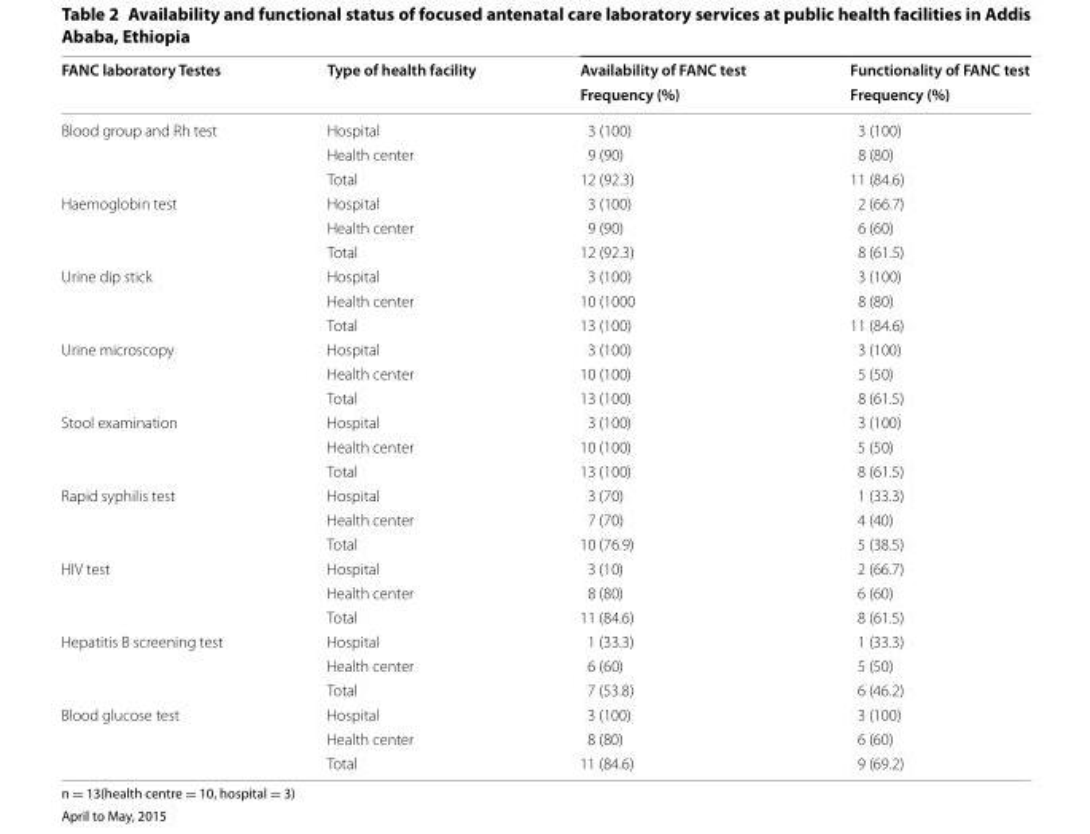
<table><thead><tr><td rowspan="2">FANC laboratory Testes</td><td rowspan="2">Type of health facility</td><td rowspan="2">Availability of FANC test Frequency (%)</td><td rowspan="2">Functionality of FANC test Frequency (%)</td></tr><tr></tr></thead><tbody><tr><td rowspan="3">Blood group and Rh test</td><td>Hospital</td><td>3 (100)</td><td>3 (100)</td></tr><tr><td>Health center</td><td>9 (90)</td><td>8 (80)</td></tr><tr><td>Total</td><td>12 (92.3)</td><td>11 (84.6)</td></tr><tr><td rowspan="3">Haemoglobin test</td><td>Hospital</td><td>3 (100)</td><td>2 (66.7)</td></tr><tr><td>Health center</td><td>9 (90)</td><td>6 (60)</td></tr><tr><td>Total</td><td>12 (92.3)</td><td>8 (61.5)</td></tr><tr><td rowspan="3">Urine dip stick</td><td>Hospital</td><td>3 (100)</td><td>3 (100)</td></tr><tr><td>Health center</td><td>10 (1000</td><td>8 (80)</td></tr><tr><td>Total</td><td>13 (100)</td><td>11 (84.6)</td></tr><tr><td rowspan="3">Urine microscopy</td><td>Hospital</td><td>3 (100)</td><td>3 (100)</td></tr><tr><td>Health center</td><td>10 (100)</td><td>5 (50)</td></tr><tr><td>Total</td><td>13 (100)</td><td>8 (61.5)</td></tr><tr><td rowspan="3">Stool examination</td><td>Hospital</td><td>3 (100)</td><td>3 (100)</td></tr><tr><td>Health center</td><td>10 (100)</td><td>5 (50)</td></tr><tr><td>Total</td><td>13 (100)</td><td>8 (61.5)</td></tr><tr><td rowspan="3">Rapid syphilis test</td><td>Hospital</td><td>3 (70)</td><td>1 (33.3)</td></tr><tr><td>Health center</td><td>7 (70)</td><td>4 (40)</td></tr><tr><td>Total</td><td>10 (76.9)</td><td>5 (38.5)</td></tr><tr><td rowspan="3">HIV test</td><td>Hospital</td><td>3 (10)</td><td>2 (66.7)</td></tr><tr><td>Health center</td><td>8 (80)</td><td>6 (60)</td></tr><tr><td>Total</td><td>11 (84.6)</td><td>8 (61.5)</td></tr><tr><td rowspan="3">Hepatitis B screening test</td><td>Hospital</td><td>1 (33.3)</td><td>1 (33.3)</td></tr><tr><td>Health center</td><td>6 (60)</td><td>5 (50)</td></tr><tr><td>Total</td><td>7 (53.8)</td><td>6 (46.2)</td></tr><tr><td rowspan="3">Blood glucose test</td><td>Hospital</td><td>3 (100)</td><td>3 (100)</td></tr><tr><td>Health center</td><td>8 (80)</td><td>6 (60)</td></tr><tr><td>Total</td><td>11 (84.6)</td><td>9 (69.2)</td></tr></tbody></table>